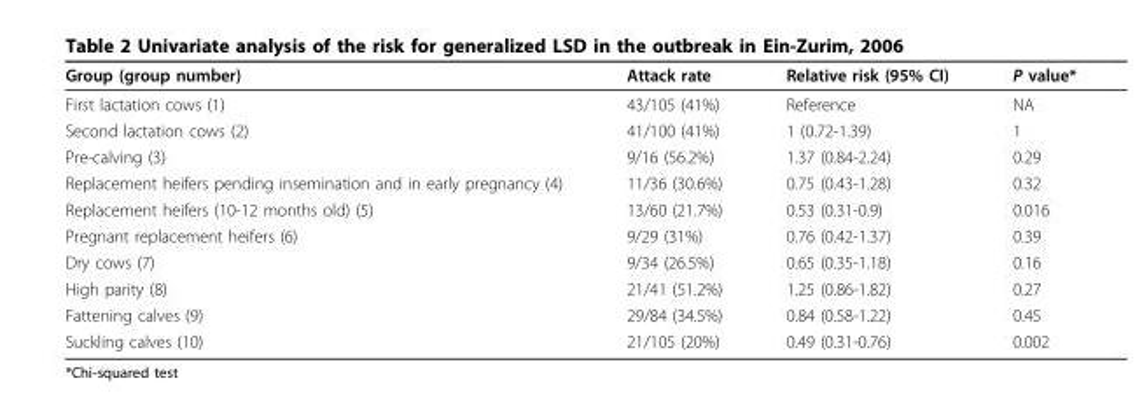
<table><thead><tr><td>Group (group number)</td><td>Attack rate</td><td>Relative risk (95% CI)</td><td>P value*</td></tr></thead><tbody><tr><td>First lactation cows (1)</td><td>43/105 (41%)</td><td>Reference</td><td>NA</td></tr><tr><td>Second lactation cows (2)</td><td>41/100 (41%)</td><td>1 (0.72-1.39)</td><td>1</td></tr><tr><td>Pre-calving (3)</td><td>9/16 (56.2%)</td><td>1.37 (0.84-2.24)</td><td>0.29</td></tr><tr><td>Replacement heifers pending insemination and in early pregnancy (4)</td><td>11/36 (30.6%)</td><td>0.75 (0.43-1.28)</td><td>0.32</td></tr><tr><td>Replacement heifers (10-12 months old) (5)</td><td>13/60 (21.7%)</td><td>0.53 (0.31-0.9)</td><td>0.016</td></tr><tr><td>Pregnant replacement heifers (6)</td><td>9/29 (31%)</td><td>0.76 (0.42-1.37)</td><td>0.39</td></tr><tr><td>Dry cows (7)</td><td>9/34 (26.5%)</td><td>0.65 (0.35-1.18)</td><td>0.16</td></tr><tr><td>High parity (8)</td><td>21/41 (51.2%)</td><td>1.25 (0.86-1.82)</td><td>0.27</td></tr><tr><td>Fattening calves (9)</td><td>29/84 (34.5%)</td><td>0.84 (0.58-1.22)</td><td>0.45</td></tr><tr><td>Suckling calves (10)</td><td>21/105 (20%)</td><td>0.49 (0.31-0.76)</td><td>0.002</td></tr></tbody></table>